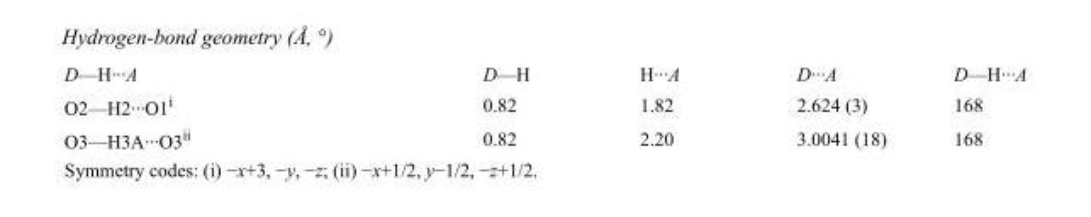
<table><tbody><tr><td>D—H···A</td><td>D—H</td><td>H···A</td><td>D···A</td><td>D—H···A</td></tr><tr><td>O2—H2···O1<sup>i</sup></td><td>0.82</td><td>1.82</td><td>2.624 (3)</td><td>168</td></tr><tr><td>O3—H3A···O3<sup>ii</sup></td><td>0.82</td><td>2.20</td><td>3.0041 (18)</td><td>168</td></tr></tbody></table>